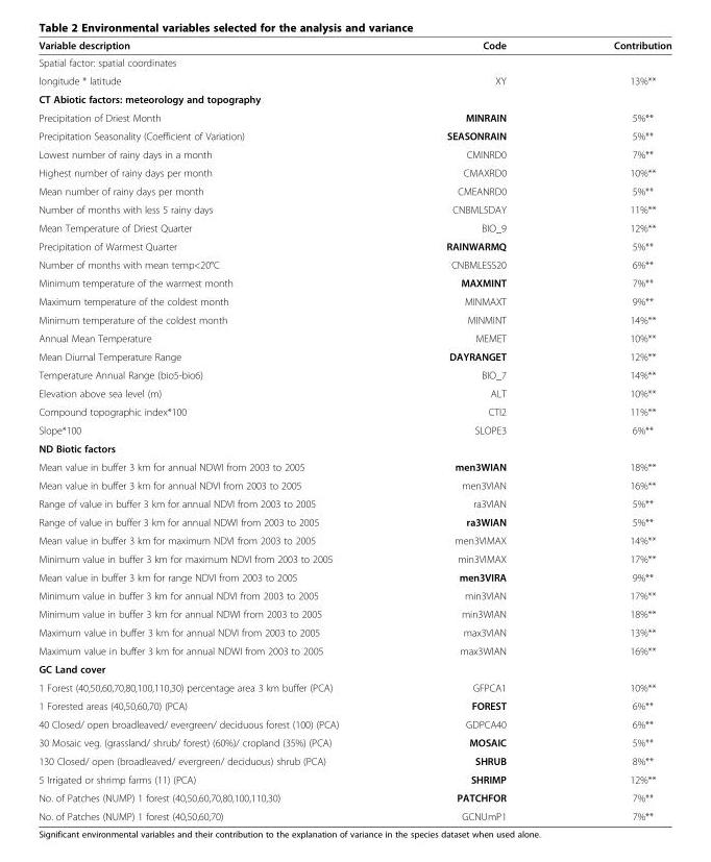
<table><thead><tr><td>Variable description</td><td>Code</td><td>Contribution</td></tr></thead><tbody><tr><td colspan="3">Spatial factor: spatial coordinates</td></tr><tr><td>longitude * latitude</td><td>XY</td><td>13%**</td></tr><tr><td colspan="3">CT Abiotic factors: meteorology and topography</td></tr><tr><td>Precipitation of Driest Month</td><td>MINRAIN</td><td>5%**</td></tr><tr><td>Precipitation Seasonality (Coefficient of Variation)</td><td>SEASONRAIN</td><td>5%**</td></tr><tr><td>Lowest number of rainy days in a month</td><td>CMINRD0</td><td>7%**</td></tr><tr><td>Highest number of rainy days per month</td><td>CMAXRD0</td><td>10%**</td></tr><tr><td>Mean number of rainy days per month</td><td>CMEANRD0</td><td>5%**</td></tr><tr><td>Number of months with less 5 rainy days</td><td>CNBML5DAY</td><td>11%**</td></tr><tr><td>Mean Temperature of Driest Quarter</td><td>BIO_9</td><td>12%**</td></tr><tr><td>Precipitation of Warmest Quarter</td><td>RAINWARMQ</td><td>5%**</td></tr><tr><td>Number of months with mean temp&lt;20°C</td><td>CNBMLESS20</td><td>6%**</td></tr><tr><td>Minimum temperature of the warmest month</td><td>MAXMINT</td><td>7%**</td></tr><tr><td>Maximum temperature of the coldest month</td><td>MINMAXT</td><td>9%**</td></tr><tr><td>Minimum temperature of the coldest month</td><td>MINMINT</td><td>14%**</td></tr><tr><td>Annual Mean Temperature</td><td>MEMET</td><td>10%**</td></tr><tr><td>Mean Diurnal Temperature Range</td><td>DAYRANGET</td><td>12%**</td></tr><tr><td>Temperature Annual Range (bio5-bio6)</td><td>BIO_7</td><td>14%**</td></tr><tr><td>Elevation above sea level (m)</td><td>ALT</td><td>10%**</td></tr><tr><td>Compound topographic index*100</td><td>CTI2</td><td>11%**</td></tr><tr><td>Slope*100</td><td>SLOPE3</td><td>6%**</td></tr><tr><td colspan="3">ND Biotic factors</td></tr><tr><td>Mean value in buffer 3 km for annual NDWI from 2003 to 2005</td><td>men3WIAN</td><td>18%**</td></tr><tr><td>Mean value in buffer 3 km for annual NDVI from 2003 to 2005</td><td>men3VIAN</td><td>16%**</td></tr><tr><td>Range of value in buffer 3 km for annual NDVI from 2003 to 2005</td><td>ra3VIAN</td><td>5%**</td></tr><tr><td>Range of value in buffer 3 km for annual NDWI from 2003 to 2005</td><td>ra3WIAN</td><td>5%**</td></tr><tr><td>Mean value in buffer 3 km for maximum NDVI from 2003 to 2005</td><td>men3VIMAX</td><td>14%**</td></tr><tr><td>Minimum value in buffer 3 km for maximum NDVI from 2003 to 2005</td><td>min3VIMAX</td><td>17%**</td></tr><tr><td>Mean value in buffer 3 km for range NDVI from 2003 to 2005</td><td>men3VIRA</td><td>9%**</td></tr><tr><td>Minimum value in buffer 3 km for annual NDVI from 2003 to 2005</td><td>min3VIAN</td><td>17%**</td></tr><tr><td>Minimum value in buffer 3 km for annual NDWI from 2003 to 2005</td><td>min3WIAN</td><td>18%**</td></tr><tr><td>Maximum value in buffer 3 km for annual NDVI from 2003 to 2005</td><td>max3VIAN</td><td>13%**</td></tr><tr><td>Maximum value in buffer 3 km for annual NDWI from 2003 to 2005</td><td>max3WIAN</td><td>16%**</td></tr><tr><td colspan="3">GC Land cover</td></tr><tr><td>1 Forest (40,50,60,70,80,100,110,30) percentage area 3 km buffer (PCA)</td><td>GFPCA1</td><td>10%**</td></tr><tr><td>1 Forested areas (40,50,60,70) (PCA)</td><td>FOREST</td><td>6%**</td></tr><tr><td>40 Closed/ open broadleaved/ evergreen/ deciduous forest (100) (PCA)</td><td>GDPCA40</td><td>6%**</td></tr><tr><td>30 Mosaic veg. (grassland/ shrub/ forest) (60%)/ cropland (35%) (PCA)</td><td>MOSAIC</td><td>5%**</td></tr><tr><td>130 Closed/ open (broadleaved/ evergreen/ deciduous) shrub (PCA)</td><td>SHRUB</td><td>8%**</td></tr><tr><td>5 Irrigated or shrimp farms (11) (PCA)</td><td>SHRIMP</td><td>12%**</td></tr><tr><td>No. of Patches (NUMP) 1 forest (40,50,60,70,80,100,110,30)</td><td>PATCHFOR</td><td>7%**</td></tr><tr><td>No. of Patches (NUMP) 1 forest (40,50,60,70)</td><td>GCNUmP1</td><td>7%**</td></tr></tbody></table>